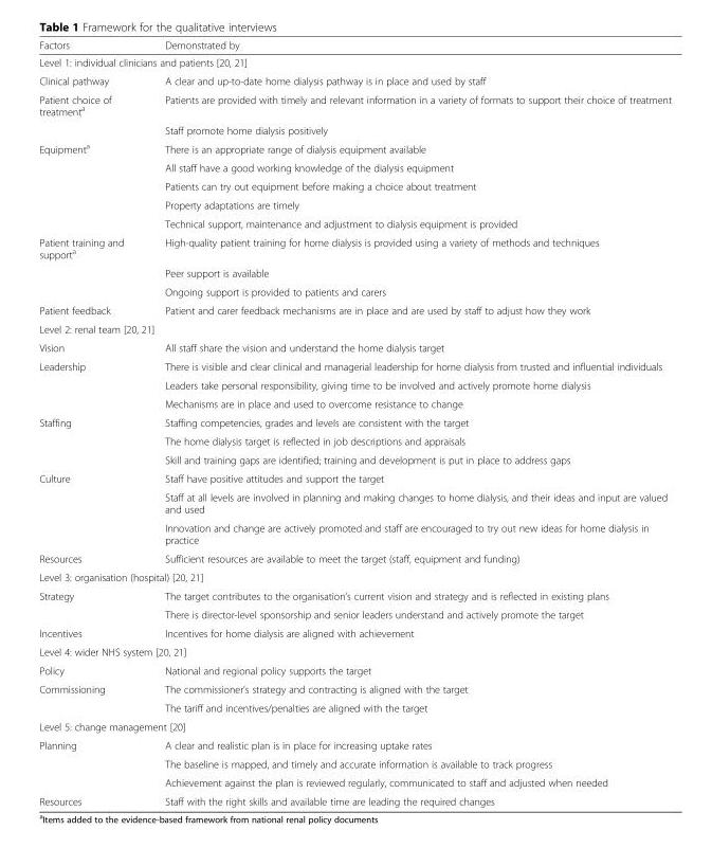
<table><thead><tr><td>Factors</td><td>Demonstrated by</td></tr></thead><tbody><tr><td colspan="2">Level 1: individual clinicians and patients [20, 21]</td></tr><tr><td>Clinical pathway</td><td>A clear and up-to-date home dialysis pathway is in place and used by staff</td></tr><tr><td rowspan="2">Patient choice of treatment<sup>a</sup></td><td>Patients are provided with timely and relevant information in a variety of formats to support their choice of treatment</td></tr><tr><td>Staff promote home dialysis positively</td></tr><tr><td rowspan="5">Equipment<sup>a</sup></td><td>There is an appropriate range of dialysis equipment available</td></tr><tr><td>All staff have a good working knowledge of the dialysis equipment</td></tr><tr><td>Patients can try out equipment before making a choice about treatment</td></tr><tr><td>Property adaptations are timely</td></tr><tr><td>Technical support, maintenance and adjustment to dialysis equipment is provided</td></tr><tr><td rowspan="3">Patient training and support<sup>a</sup></td><td>High-quality patient training for home dialysis is provided using a variety of methods and techniques</td></tr><tr><td>Peer support is available</td></tr><tr><td>Ongoing support is provided to patients and carers</td></tr><tr><td>Patient feedback</td><td>Patient and carer feedback mechanisms are in place and are used by staff to adjust how they work</td></tr><tr><td colspan="2">Level 2: renal team [20, 21]</td></tr><tr><td>Vision</td><td>All staff share the vision and understand the home dialysis target</td></tr><tr><td rowspan="3">Leadership</td><td>There is visible and clear clinical and managerial leadership for home dialysis from trusted and influential individuals</td></tr><tr><td>Leaders take personal responsibility, giving time to be involved and actively promote home dialysis</td></tr><tr><td>Mechanisms are in place and used to overcome resistance to change</td></tr><tr><td rowspan="3">Staffing</td><td>Staffing competencies, grades and levels are consistent with the target</td></tr><tr><td>The home dialysis target is reflected in job descriptions and appraisals</td></tr><tr><td>Skill and training gaps are identified; training and development is put in place to address gaps</td></tr><tr><td rowspan="3">Culture</td><td>Staff have positive attitudes and support the target</td></tr><tr><td>Staff at all levels are involved in planning and making changes to home dialysis, and their ideas and input are valued and used</td></tr><tr><td>Innovation and change are actively promoted and staff are encouraged to try out new ideas for home dialysis in practice</td></tr><tr><td>Resources</td><td>Sufficient resources are available to meet the target (staff, equipment and funding)</td></tr><tr><td colspan="2">Level 3: organisation (hospital) [20, 21]</td></tr><tr><td rowspan="2">Strategy</td><td>The target contributes to the organisation’s current vision and strategy and is reflected in existing plans</td></tr><tr><td>There is director-level sponsorship and senior leaders understand and actively promote the target</td></tr><tr><td>Incentives</td><td>Incentives for home dialysis are aligned with achievement</td></tr><tr><td colspan="2">Level 4: wider NHS system [20, 21]</td></tr><tr><td>Policy</td><td>National and regional policy supports the target</td></tr><tr><td rowspan="2">Commissioning</td><td>The commissioner’s strategy and contracting is aligned with the target</td></tr><tr><td>The tariff and incentives/penalties are aligned with the target</td></tr><tr><td colspan="2">Level 5: change management [20]</td></tr><tr><td rowspan="3">Planning</td><td>A clear and realistic plan is in place for increasing uptake rates</td></tr><tr><td>The baseline is mapped, and timely and accurate information is available to track progress</td></tr><tr><td>Achievement against the plan is reviewed regularly, communicated to staff and adjusted when needed</td></tr><tr><td>Resources</td><td>Staff with the right skills and available time are leading the required changes</td></tr></tbody></table>